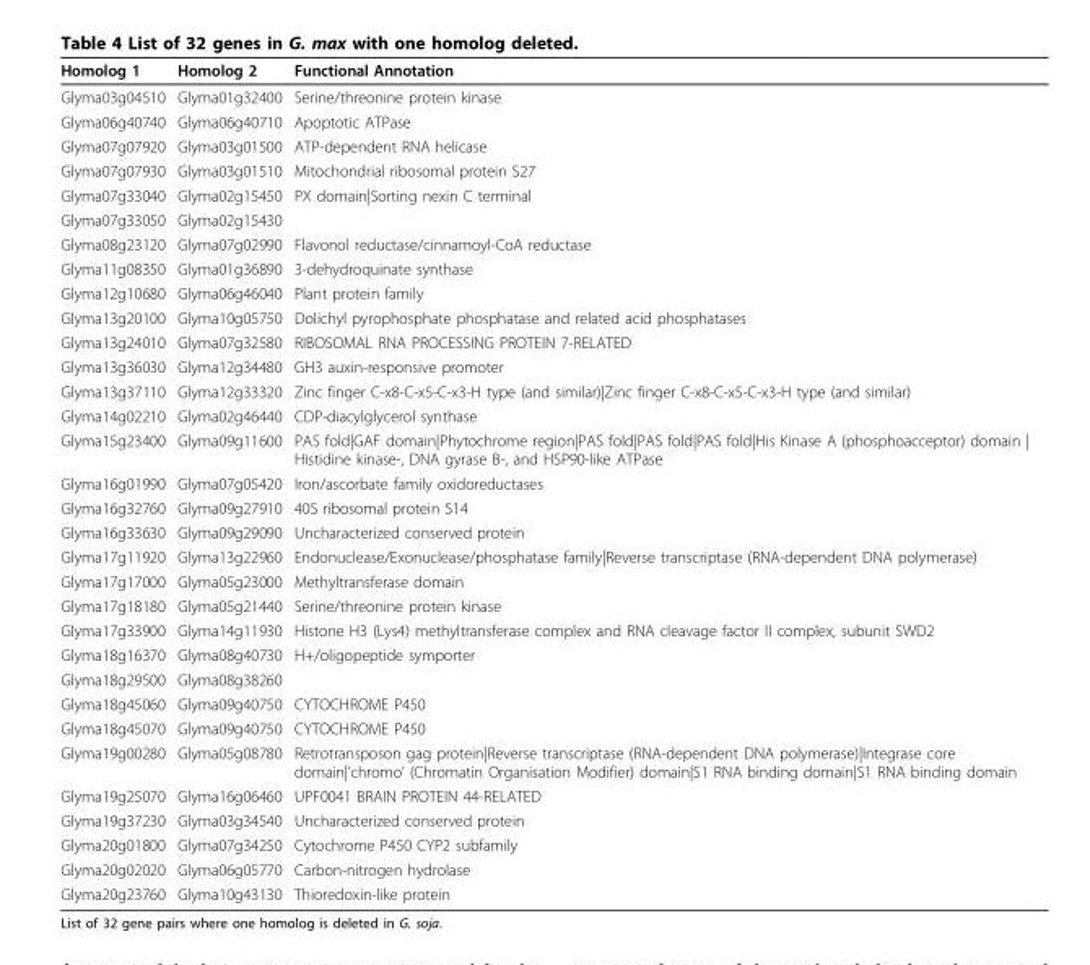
<table><thead><tr><td>Homolog 1</td><td>Homolog 2</td><td>Functional Annotation</td></tr></thead><tbody><tr><td>Glyma03g04510</td><td>Glyma01g32400</td><td>Serine/threonine protein kinase</td></tr><tr><td>Glyma06g40740</td><td>Glyma06g40710</td><td>Apoptotic ATPase</td></tr><tr><td>Glyma07g07920</td><td>Glyma03g01500</td><td>ATP-dependent RNA helicase</td></tr><tr><td>Glyma07g07930</td><td>Glyma03g01510</td><td>Mitochondrial ribosomal protein S27</td></tr><tr><td>Glyma07g33040</td><td>Glyma02g15450</td><td>PX domain|Sorting nexin C terminal</td></tr><tr><td>Glyma07g33050</td><td>Glyma02g15430</td><td></td></tr><tr><td>Glyma08g23120</td><td>Glyma07g02990</td><td>Flavonol reductase/cinnamoyl-CoA reductase</td></tr><tr><td>Glyma11g08350</td><td>Glyma01g36890</td><td>3-dehydroquinate synthase</td></tr><tr><td>Glyma12g10680</td><td>Glyma06g46040</td><td>Plant protein family</td></tr><tr><td>Glyma13g20100</td><td>Glyma10g05750</td><td>Dolichyl pyrophosphate phosphatase and related acid phosphatases</td></tr><tr><td>Glyma13g24010</td><td>Glyma07g32580</td><td>RIBOSOMAL RNA PROCESSING PROTEIN 7-RELATED</td></tr><tr><td>Glyma13g36030</td><td>Glyma12g34480</td><td>GH3 auxin-responsive promoter</td></tr><tr><td>Glyma13g37110</td><td>Glyma12g33320</td><td>Zinc finger C-x8-C-x5-C-x3-H type (and similar)|Zinc finger C-x8-C-x5-C-x3-H type (and similar)</td></tr><tr><td>Glyma14g02210</td><td>Glyma02g46440</td><td>CDP-diacylglycerol synthase</td></tr><tr><td>Glyma15g23400</td><td>Glyma09g11600</td><td>PAS fold|GAF domain|Phytochrome region|PAS fold|PAS fold|PAS fold|His Kinase A (phosphoacceptor) domain | Histidine kinase-, DNA gyrase B-, and HSP90-like ATPase</td></tr><tr><td>Glyma16g01990</td><td>Glyma07g05420</td><td>Iron/ascorbate family oxidoreductases</td></tr><tr><td>Glyma16g32760</td><td>Glyma09g27910</td><td>40S ribosomal protein S14</td></tr><tr><td>Glyma16g33630</td><td>Glyma09g29090</td><td>Uncharacterized conserved protein</td></tr><tr><td>Glyma17g11920</td><td>Glyma13g22960</td><td>Endonuclease/Exonuclease/phosphatase family|Reverse transcriptase (RNA-dependent DNA polymerase)</td></tr><tr><td>Glyma17g17000</td><td>Glyma05g23000</td><td>Methyltransferase domain</td></tr><tr><td>Glyma17g18180</td><td>Glyma05g21440</td><td>Serine/threonine protein kinase</td></tr><tr><td>Glyma17g33900</td><td>Glyma14g11930</td><td>Histone H3 (Lys4) methyltransferase complex and RNA cleavage factor II complex, subunit SWD2</td></tr><tr><td>Glyma18g16370</td><td>Glyma08g40730</td><td>H+/oligopeptide symporter</td></tr><tr><td>Glyma18g29500</td><td>Glyma08g38260</td><td></td></tr><tr><td>Glyma18g45060</td><td>Glyma09g40750</td><td>CYTOCHROME P450</td></tr><tr><td>Glyma18g45070</td><td>Glyma09g40750</td><td>CYTOCHROME P450</td></tr><tr><td>Glyma19g00280</td><td>Glyma05g08780</td><td>Retrotransposon gag protein|Reverse transcriptase (RNA-dependent DNA polymerase)|Integrase core domain|’chromo’ (Chromatin Organisation Modifier) domain|S1 RNA binding domain|S1 RNA binding domain</td></tr><tr><td>Glyma19g25070</td><td>Glyma16g06460</td><td>UPF0041 BRAIN PROTEIN 44-RELATED</td></tr><tr><td>Glyma19g37230</td><td>Glyma03g34540</td><td>Uncharacterized conserved protein</td></tr><tr><td>Glyma20g01800</td><td>Glyma07g34250</td><td>Cytochrome P450 CYP2 subfamily</td></tr><tr><td>Glyma20g02020</td><td>Glyma06g05770</td><td>Carbon-nitrogen hydrolase</td></tr><tr><td>Glyma20g23760</td><td>Glyma10g43130</td><td>Thioredoxin-like protein</td></tr></tbody></table>